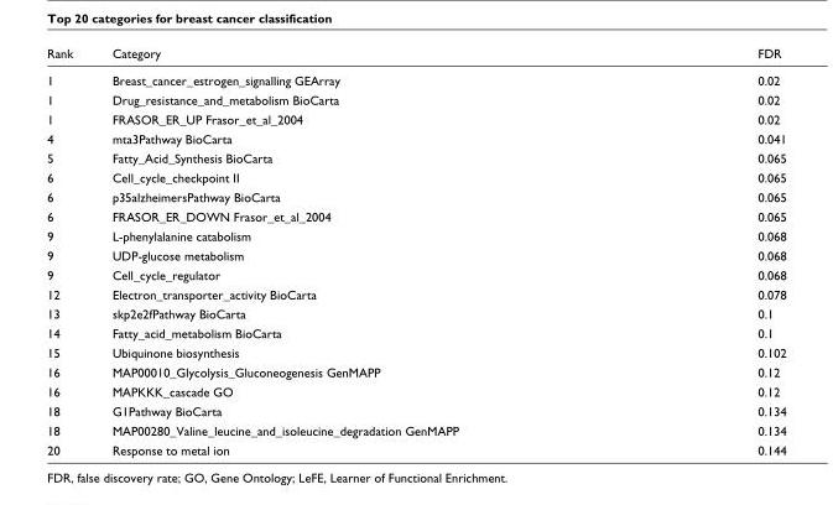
<table><thead><tr><td>Rank</td><td>Category</td><td>FDR</td></tr></thead><tbody><tr><td>1</td><td>Breast_cancer_estrogen_signalling GEArray</td><td>0.02</td></tr><tr><td>1</td><td>Drug_resistance_and_metabolism BioCarta</td><td>0.02</td></tr><tr><td>1</td><td>FRASOR_ER_UP Frasor_et_al_2004</td><td>0.02</td></tr><tr><td>4</td><td>mta3Pathway BioCarta</td><td>0.041</td></tr><tr><td>5</td><td>Fatty_Acid_Synthesis BioCarta</td><td>0.065</td></tr><tr><td>6</td><td>Cell_cycle_checkpoint II</td><td>0.065</td></tr><tr><td>6</td><td>p35alzheimersPathway BioCarta</td><td>0.065</td></tr><tr><td>6</td><td>FRASOR_ER_DOWN Frasor_et_al_2004</td><td>0.065</td></tr><tr><td>9</td><td>L-phenylalanine catabolism</td><td>0.068</td></tr><tr><td>9</td><td>UDP-glucose metabolism</td><td>0.068</td></tr><tr><td>9</td><td>Cell_cycle_regulator</td><td>0.068</td></tr><tr><td>12</td><td>Electron_transporter_activity BioCarta</td><td>0.078</td></tr><tr><td>13</td><td>skp2e2fPathway BioCarta</td><td>0.1</td></tr><tr><td>14</td><td>Fatty_acid_metabolism BioCarta</td><td>0.1</td></tr><tr><td>15</td><td>Ubiquinone biosynthesis</td><td>0.102</td></tr><tr><td>16</td><td>MAP00010_Glycolysis_Gluconeogenesis GenMAPP</td><td>0.12</td></tr><tr><td>16</td><td>MAPKKK_cascade GO</td><td>0.12</td></tr><tr><td>18</td><td>G1Pathway BioCarta</td><td>0.134</td></tr><tr><td>18</td><td>MAP00280_Valine_leucine_and_isoleucine_degradation GenMAPP</td><td>0.134</td></tr><tr><td>20</td><td>Response to metal ion</td><td>0.144</td></tr></tbody></table>